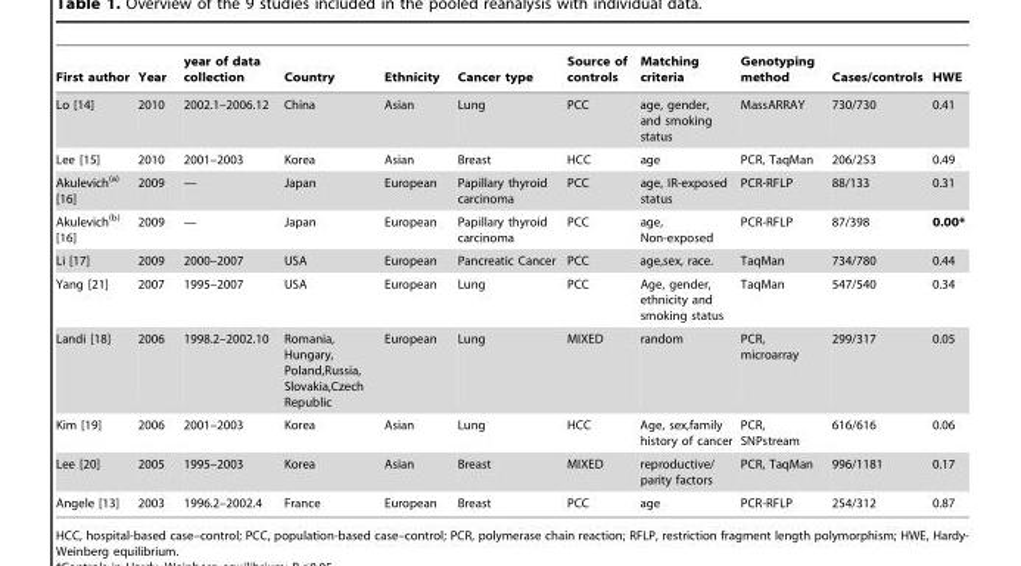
<table><thead><tr><td>First author</td><td>Year</td><td>year of data collection</td><td>Country</td><td>Ethnicity</td><td>Cancer type</td><td>Source of controls</td><td>Matching criteria</td><td>Genotyping method</td><td>Cases/controls</td><td>HWE</td></tr></thead><tbody><tr><td>Lo [14]</td><td>2010</td><td>2002.1–2006.12</td><td>China</td><td>Asian</td><td>Lung</td><td>PCC</td><td>age, gender, and smoking status</td><td>MassARRAY</td><td>730/730</td><td>0.41</td></tr><tr><td>Lee [15]</td><td>2010</td><td>2001–2003</td><td>Korea</td><td>Asian</td><td>Breast</td><td>HCC</td><td>age</td><td>PCR, TaqMan</td><td>206/253</td><td>0.49</td></tr><tr><td>Akulevich<sup>(a)</sup> [16]</td><td>2009</td><td>—</td><td>Japan</td><td>European</td><td>Papillary thyroid carcinoma</td><td>PCC</td><td>age, IR-exposed status</td><td>PCR-RFLP</td><td>88/133</td><td>0.31</td></tr><tr><td>Akulevich<sup>(b)</sup> [16]</td><td>2009</td><td>—</td><td>Japan</td><td>European</td><td>Papillary thyroid carcinoma</td><td>PCC</td><td>age, Non-exposed</td><td>PCR-RFLP</td><td>87/398</td><td>0.00*</td></tr><tr><td>Li [17]</td><td>2009</td><td>2000–2007</td><td>USA</td><td>European</td><td>Pancreatic Cancer</td><td>PCC</td><td>age,sex, race.</td><td>TaqMan</td><td>734/780</td><td>0.44</td></tr><tr><td>Yang [21]</td><td>2007</td><td>1995–2007</td><td>USA</td><td>European</td><td>Lung</td><td>PCC</td><td>Age, gender, ethnicity and smoking status</td><td>TaqMan</td><td>547/540</td><td>0.34</td></tr><tr><td>Landi [18]</td><td>2006</td><td>1998.2–2002.10</td><td>Romania, Hungary, Poland,Russia, Slovakia,Czech Republic</td><td>European</td><td>Lung</td><td>MIXED</td><td>random</td><td>PCR, microarray</td><td>299/317</td><td>0.05</td></tr><tr><td>Kim [19]</td><td>2006</td><td>2001–2003</td><td>Korea</td><td>Asian</td><td>Lung</td><td>HCC</td><td>Age, sex,family history of cancer</td><td>PCR, SNPstream</td><td>616/616</td><td>0.06</td></tr><tr><td>Lee [20]</td><td>2005</td><td>1995–2003</td><td>Korea</td><td>Asian</td><td>Breast</td><td>MIXED</td><td>reproductive/ parity factors</td><td>PCR, TaqMan</td><td>996/1181</td><td>0.17</td></tr><tr><td>Angele [13]</td><td>2003</td><td>1996.2–2002.4</td><td>France</td><td>European</td><td>Breast</td><td>PCC</td><td>age</td><td>PCR-RFLP</td><td>254/312</td><td>0.87</td></tr></tbody></table>